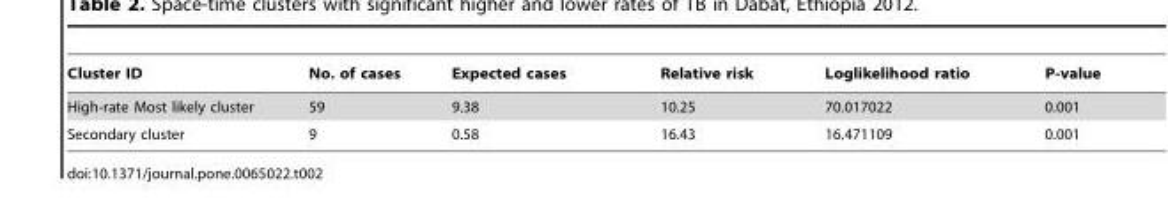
<table><thead><tr><td>Cluster ID</td><td>No. of cases</td><td>Expected cases</td><td>Relative risk</td><td>Loglikelihood ratio</td><td>P-value</td></tr></thead><tbody><tr><td>High-rate Most likely cluster</td><td>59</td><td>9.38</td><td>10.25</td><td>70.017022</td><td>0.001</td></tr><tr><td>Secondary cluster</td><td>9</td><td>0.58</td><td>16.43</td><td>16.471109</td><td>0.001</td></tr></tbody></table>